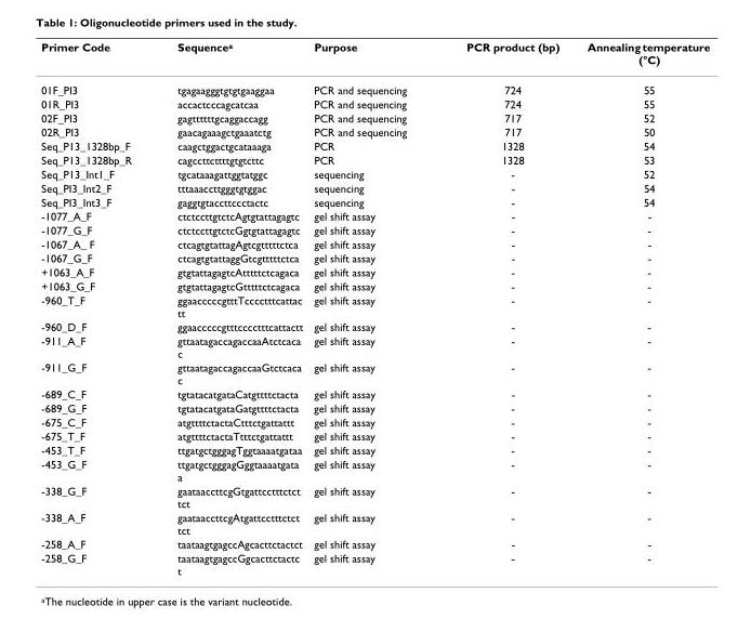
<table><thead><tr><td>Primer Code</td><td>Sequence<sup>a</sup></td><td>Purpose</td><td>PCR product (bp)</td><td>Annealing temperature (°C)</td></tr></thead><tbody><tr><td>01F_PI3</td><td>tgagaagggtgtgtgaaggaa</td><td>PCR and sequencing</td><td>724</td><td>55</td></tr><tr><td>01R_PI3</td><td>accactcccagcatcaa</td><td>PCR and sequencing</td><td>724</td><td>55</td></tr><tr><td>02F_PI3</td><td>gagttttttgcaggaccagg</td><td>PCR and sequencing</td><td>717</td><td>52</td></tr><tr><td>02R_PI3</td><td>gaacagaaagctgaaatctg</td><td>PCR and sequencing</td><td>717</td><td>50</td></tr><tr><td>Seq_P13_1328bp_F</td><td>caagctggactgcataaaga</td><td>PCR</td><td>1328</td><td>54</td></tr><tr><td>Seq_P13_1328bp_R</td><td>cagccttcttttgtgtcttc</td><td>PCR</td><td>1328</td><td>53</td></tr><tr><td>Seq_P13_Int1_F</td><td>tgcataaagattggtatggc</td><td>sequencing</td><td>-</td><td>52</td></tr><tr><td>Seq_PI3_Int2_F</td><td>tttaaaccttgggtgtggac</td><td>sequencing</td><td>-</td><td>54</td></tr><tr><td>Seq_PI3_Int3_F</td><td>gaggtgtaccttccctactc</td><td>sequencing</td><td>-</td><td>54</td></tr><tr><td>-1077_A_F</td><td>ctctccttgtctcAgtgtattagagtc</td><td>gel shift assay</td><td>-</td><td>-</td></tr><tr><td>-1077_G_F</td><td>ctctccttgtctcGgtgtattagagtc</td><td>gel shift assay</td><td>-</td><td>-</td></tr><tr><td>-1067_A_ F</td><td>ctcagtgtattagAgtcgtttttctca</td><td>gel shift assay</td><td>-</td><td>-</td></tr><tr><td>-1067_G_F</td><td>ctcagtgtattaggGtcgtttttctca</td><td>gel shift assay</td><td>-</td><td>-</td></tr><tr><td>+1063_A_F</td><td>gtgtattagagtcAtttttctcagaca</td><td>gel shift assay</td><td>-</td><td>-</td></tr><tr><td>+1063_G_F</td><td>gtgtattagagtcGtttttctcagaca</td><td>gel shift assay</td><td>-</td><td>-</td></tr><tr><td>-960_T_F</td><td>ggaacccccgtttTcccctttcattac tt</td><td>gel shift assay</td><td>-</td><td>-</td></tr><tr><td>-960_D_F</td><td>ggaacccccgtttcccctttcattactt</td><td>gel shift assay</td><td>-</td><td>-</td></tr><tr><td>-911_A_F</td><td>gttaatagaccagaccaaAtctcaca c</td><td>gel shift assay</td><td>-</td><td>-</td></tr><tr><td>-911_G_F</td><td>gttaatagaccagaccaaGtctcaca c</td><td>gel shift assay</td><td>-</td><td>-</td></tr><tr><td>-689_C_F</td><td>tgtatacatgataCatgttttctacta</td><td>gel shift assay</td><td>-</td><td>-</td></tr><tr><td>-689_G_F</td><td>tgtatacatgataGatgttttctacta</td><td>gel shift assay</td><td>-</td><td>-</td></tr><tr><td>-675_C_F</td><td>atgttttctactaCtttctgattattt</td><td>gel shift assay</td><td>-</td><td>-</td></tr><tr><td>-675_T_F</td><td>atgttttctactaTtttctgattattt</td><td>gel shift assay</td><td>-</td><td>-</td></tr><tr><td>-453_T_F</td><td>ttgatgctgggagTggtaaaatgataa</td><td>gel shift assay</td><td>-</td><td>-</td></tr><tr><td>-453_G_F</td><td>ttgatgctgggagGggtaaaatgata a</td><td>gel shift assay</td><td>-</td><td>-</td></tr><tr><td>-338_G_F</td><td>gaataaccttcgGtgattcctttctct tct</td><td>gel shift assay</td><td>-</td><td>-</td></tr><tr><td>-338_A_F</td><td>gaataaccttcgAtgattcctttctct tct</td><td>gel shift assay</td><td>-</td><td>-</td></tr><tr><td>-258_A_F</td><td>taataagtgagccAgcacttctactct</td><td>gel shift assay</td><td>-</td><td>-</td></tr><tr><td>-258_G_F</td><td>taataagtgagccGgcacttctactc t</td><td>gel shift assay</td><td>-</td><td>-</td></tr></tbody></table>